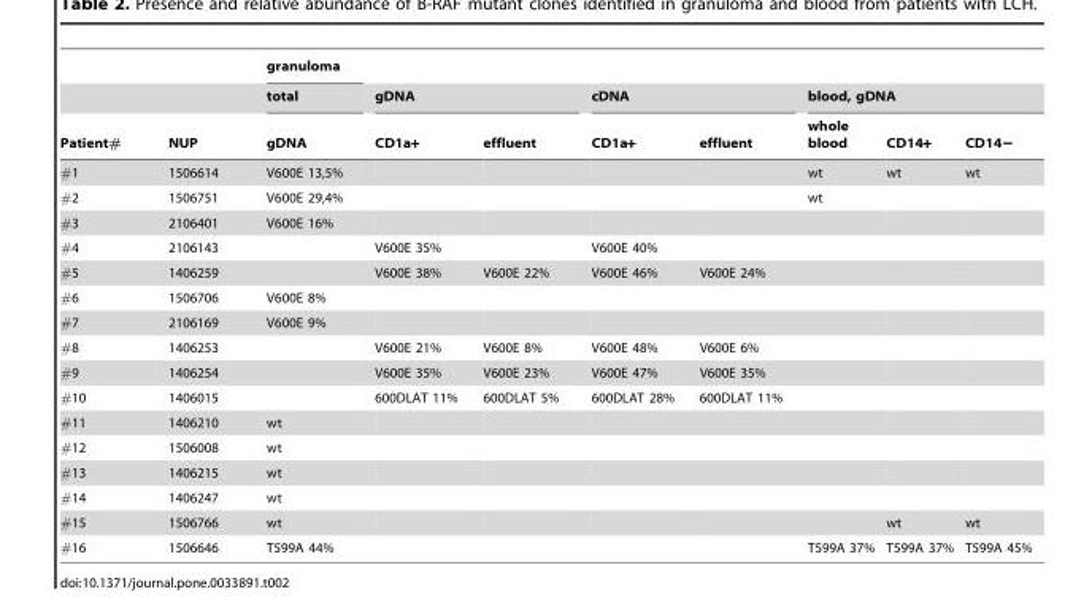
<table><thead><tr><td rowspan="3">Patient#</td><td rowspan="3">NUP</td><td rowspan="3">granuloma total gDNA</td><td></td><td></td><td></td><td></td><td></td><td></td><td></td></tr><tr><td colspan="2">gDNA</td><td colspan="2">cDNA</td><td colspan="3">blood, gDNA</td></tr><tr><td>CD1a+</td><td>effluent</td><td>CD1a+</td><td>effluent</td><td>whole blood</td><td>CD14+</td><td>CD14−</td></tr></thead><tbody><tr><td>#1</td><td>1506614</td><td>V600E 13,5%</td><td></td><td></td><td></td><td></td><td>wt</td><td>wt</td><td>wt</td></tr><tr><td>#2</td><td>1506751</td><td>V600E 29,4%</td><td></td><td></td><td></td><td></td><td>wt</td><td></td><td></td></tr><tr><td>#3</td><td>2106401</td><td>V600E 16%</td><td></td><td></td><td></td><td></td><td></td><td></td><td></td></tr><tr><td>#4</td><td>2106143</td><td></td><td>V600E 35%</td><td></td><td>V600E 40%</td><td></td><td></td><td></td><td></td></tr><tr><td>#5</td><td>1406259</td><td></td><td>V600E 38%</td><td>V600E 22%</td><td>V600E 46%</td><td>V600E 24%</td><td></td><td></td><td></td></tr><tr><td>#6</td><td>1506706</td><td>V600E 8%</td><td></td><td></td><td></td><td></td><td></td><td></td><td></td></tr><tr><td>#7</td><td>2106169</td><td>V600E 9%</td><td></td><td></td><td></td><td></td><td></td><td></td><td></td></tr><tr><td>#8</td><td>1406253</td><td></td><td>V600E 21%</td><td>V600E 8%</td><td>V600E 48%</td><td>V600E 6%</td><td></td><td></td><td></td></tr><tr><td>#9</td><td>1406254</td><td></td><td>V600E 35%</td><td>V600E 23%</td><td>V600E 47%</td><td>V600E 35%</td><td></td><td></td><td></td></tr><tr><td>#10</td><td>1406015</td><td></td><td>600DLAT 11%</td><td>600DLAT 5%</td><td>600DLAT 28%</td><td>600DLAT 11%</td><td></td><td></td><td></td></tr><tr><td>#11</td><td>1406210</td><td>wt</td><td></td><td></td><td></td><td></td><td></td><td></td><td></td></tr><tr><td>#12</td><td>1506008</td><td>wt</td><td></td><td></td><td></td><td></td><td></td><td></td><td></td></tr><tr><td>#13</td><td>1406215</td><td>wt</td><td></td><td></td><td></td><td></td><td></td><td></td><td></td></tr><tr><td>#14</td><td>1406247</td><td>wt</td><td></td><td></td><td></td><td></td><td></td><td></td><td></td></tr><tr><td>#15</td><td>1506766</td><td>wt</td><td></td><td></td><td></td><td></td><td></td><td>wt</td><td>wt</td></tr><tr><td>#16</td><td>1506646</td><td>T599A 44%</td><td></td><td></td><td></td><td></td><td>T599A 37%</td><td>T599A 37%</td><td>T599A 45%</td></tr></tbody></table>